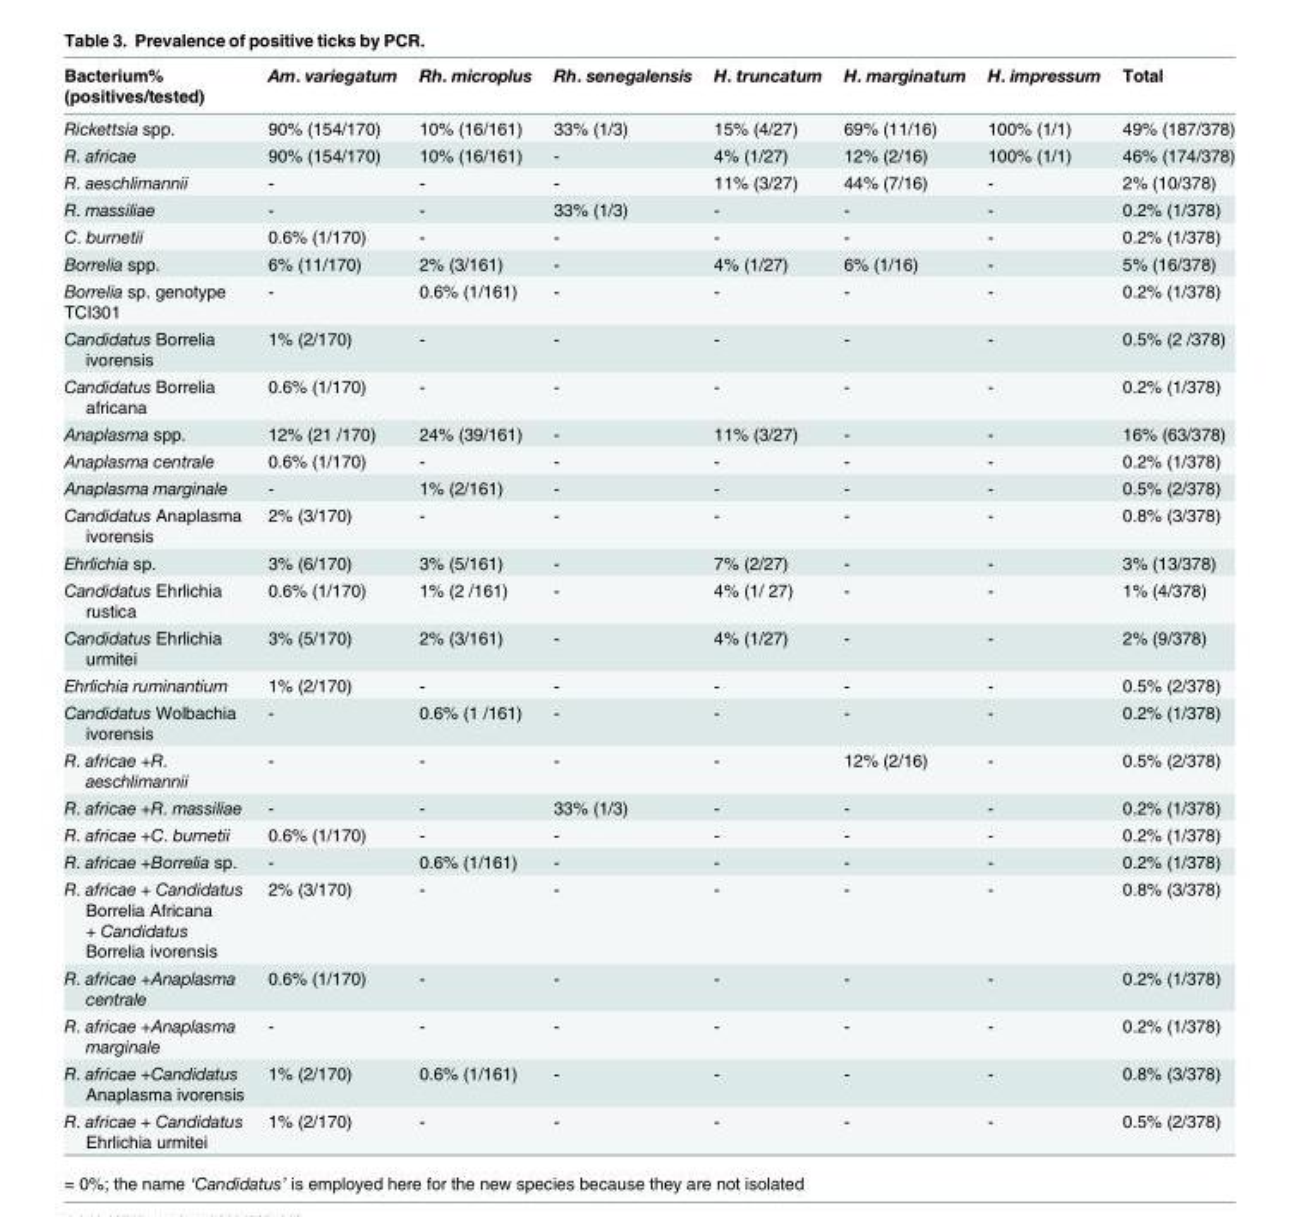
<table><thead><tr><td>Bacterium% (positives/tested)</td><td>Am. variegatum</td><td>Rh. microplus</td><td>Rh. senegalensis</td><td>H. truncatum</td><td>H. marginatum</td><td>H. impressum</td><td>Total</td></tr></thead><tbody><tr><td>Rickettsia spp.</td><td>90% (154/170)</td><td>10% (16/161)</td><td>33% (1/3)</td><td>15% (4/27)</td><td>69% (11/16)</td><td>100% (1/1)</td><td>49% (187/378)</td></tr><tr><td>R. africae</td><td>90% (154/170)</td><td>10% (16/161)</td><td>-</td><td>4% (1/27)</td><td>12% (2/16)</td><td>100% (1/1)</td><td>46% (174/378)</td></tr><tr><td>R. aeschlimannii</td><td>-</td><td>-</td><td>-</td><td>11% (3/27)</td><td>44% (7/16)</td><td>-</td><td>2% (10/378)</td></tr><tr><td>R. massiliae</td><td>-</td><td>-</td><td>33% (1/3)</td><td>-</td><td>-</td><td>-</td><td>0.2% (1/378)</td></tr><tr><td>C. burnetii</td><td>0.6% (1/170)</td><td>-</td><td>-</td><td>-</td><td>-</td><td>-</td><td>0.2% (1/378)</td></tr><tr><td>Borrelia spp.</td><td>6% (11/170)</td><td>2% (3/161)</td><td>-</td><td>4% (1/27)</td><td>6% (1/16)</td><td>-</td><td>5% (16/378)</td></tr><tr><td>Borrelia sp. genotype TCI301</td><td>-</td><td>0.6% (1/161)</td><td>-</td><td>-</td><td>-</td><td>-</td><td>0.2% (1/378)</td></tr><tr><td>Candidatus Borrelia ivorensis</td><td>1% (2/170)</td><td>-</td><td>-</td><td>-</td><td>-</td><td>-</td><td>0.5% (2 /378)</td></tr><tr><td>Candidatus Borrelia africana</td><td>0.6% (1/170)</td><td>-</td><td>-</td><td>-</td><td>-</td><td>-</td><td>0.2% (1/378)</td></tr><tr><td>Anaplasma spp.</td><td>12% (21 /170)</td><td>24% (39/161)</td><td>-</td><td>11% (3/27)</td><td>-</td><td>-</td><td>16% (63/378)</td></tr><tr><td>Anaplasma centrale</td><td>0.6% (1/170)</td><td>-</td><td>-</td><td>-</td><td>-</td><td>-</td><td>0.2% (1/378)</td></tr><tr><td>Anaplasma marginale</td><td>-</td><td>1% (2/161)</td><td>-</td><td>-</td><td>-</td><td>-</td><td>0.5% (2/378)</td></tr><tr><td>Candidatus Anaplasma ivorensis</td><td>2% (3/170)</td><td>-</td><td>-</td><td>-</td><td>-</td><td>-</td><td>0.8% (3/378)</td></tr><tr><td>Ehrlichia sp.</td><td>3% (6/170)</td><td>3% (5/161)</td><td>-</td><td>7% (2/27)</td><td>-</td><td>-</td><td>3% (13/378)</td></tr><tr><td>Candidatus Ehrlichia rustica</td><td>0.6% (1/170)</td><td>1% (2 /161)</td><td>-</td><td>4% (1/ 27)</td><td>-</td><td>-</td><td>1% (4/378)</td></tr><tr><td>Candidatus Ehrlichia urmitei</td><td>3% (5/170)</td><td>2% (3/161)</td><td>-</td><td>4% (1/27)</td><td>-</td><td>-</td><td>2% (9/378)</td></tr><tr><td>Ehrlichia ruminantium</td><td>1% (2/170)</td><td>-</td><td>-</td><td>-</td><td>-</td><td>-</td><td>0.5% (2/378)</td></tr><tr><td>Candidatus Wolbachia ivorensis</td><td>-</td><td>0.6% (1 /161)</td><td>-</td><td>-</td><td>-</td><td>-</td><td>0.2% (1/378)</td></tr><tr><td>R. africae +R. aeschlimannii</td><td>-</td><td>-</td><td>-</td><td>-</td><td>12% (2/16)</td><td>-</td><td>0.5% (2/378)</td></tr><tr><td>R. africae +R. massiliae</td><td>-</td><td>-</td><td>33% (1/3)</td><td>-</td><td>-</td><td>-</td><td>0.2% (1/378)</td></tr><tr><td>R. africae +C. burnetii</td><td>0.6% (1/170)</td><td>-</td><td>-</td><td>-</td><td>-</td><td>-</td><td>0.2% (1/378)</td></tr><tr><td>R. africae +Borrelia sp.</td><td>-</td><td>0.6% (1/161)</td><td>-</td><td>-</td><td>-</td><td>-</td><td>0.2% (1/378)</td></tr><tr><td>R. africae + Candidatus Borrelia Africana + Candidatus Borrelia ivorensis</td><td>2% (3/170)</td><td>-</td><td>-</td><td>-</td><td>-</td><td>-</td><td>0.8% (3/378)</td></tr><tr><td>R. africae +Anaplasma centrale</td><td>0.6% (1/170)</td><td>-</td><td>-</td><td>-</td><td>-</td><td>-</td><td>0.2% (1/378)</td></tr><tr><td>R. africae +Anaplasma marginale</td><td>-</td><td>-</td><td>-</td><td>-</td><td>-</td><td>-</td><td>0.2% (1/378)</td></tr><tr><td>R. africae +Candidatus Anaplasma ivorensis</td><td>1% (2/170)</td><td>0.6% (1/161)</td><td>-</td><td>-</td><td>-</td><td>-</td><td>0.8% (3/378)</td></tr><tr><td>R. africae + Candidatus Ehrlichia urmitei</td><td>1% (2/170)</td><td>-</td><td>-</td><td>-</td><td>-</td><td>-</td><td>0.5% (2/378)</td></tr></tbody></table>